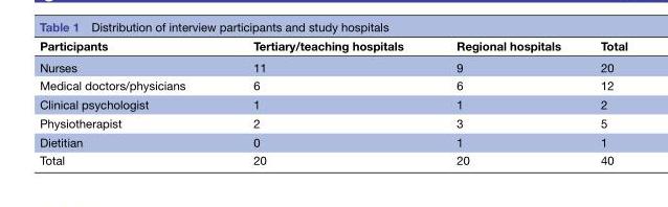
<table><thead><tr><td>Participants</td><td>Tertiary/teaching hospitals</td><td>Regional hospitals</td><td>Total</td></tr></thead><tbody><tr><td>Nurses</td><td>11</td><td>9</td><td>20</td></tr><tr><td>Medical doctors/physicians</td><td>6</td><td>6</td><td>12</td></tr><tr><td>Clinical psychologist</td><td>1</td><td>1</td><td>2</td></tr><tr><td>Physiotherapist</td><td>2</td><td>3</td><td>5</td></tr><tr><td>Dietitian</td><td>0</td><td>1</td><td>1</td></tr><tr><td>Total</td><td>20</td><td>20</td><td>40</td></tr></tbody></table>